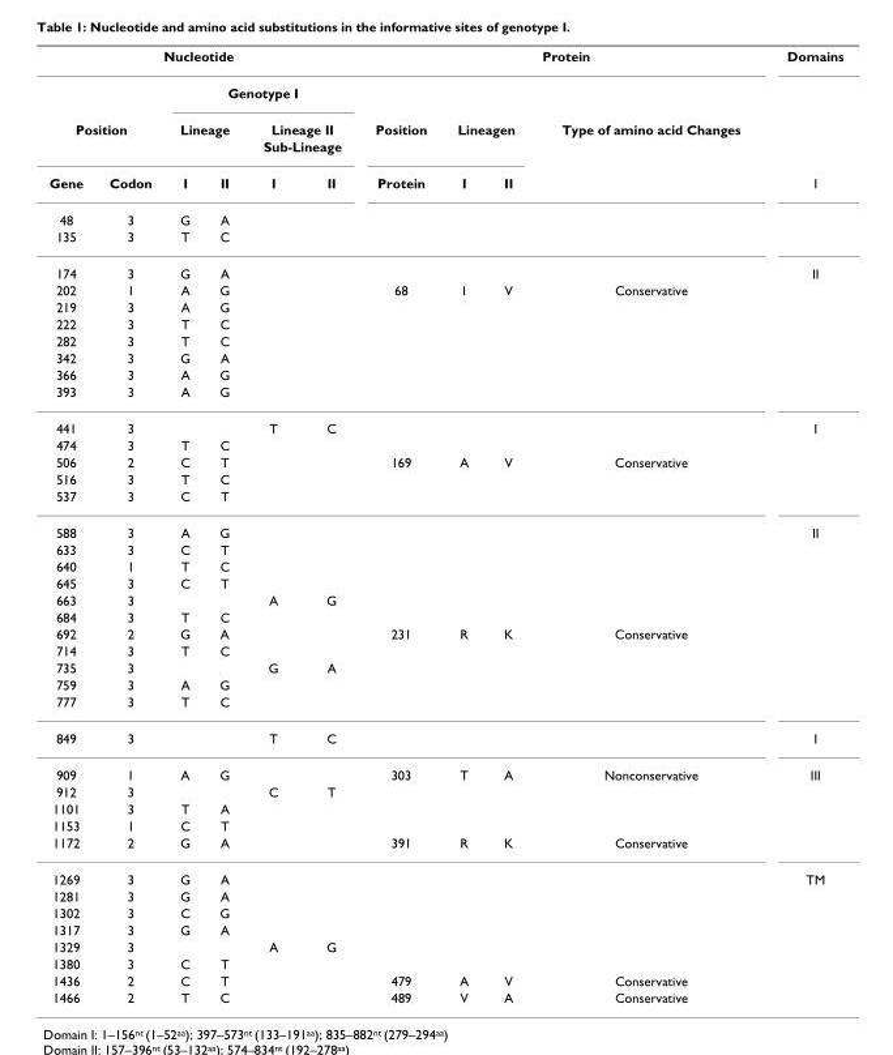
<table><tbody><tr><td colspan="6">Nucleotide</td><td colspan="4">Protein</td><td>Domains</td></tr><tr><td></td><td></td><td colspan="4">Genotype I</td><td></td><td></td><td></td><td></td><td></td></tr><tr><td colspan="2">Position</td><td colspan="2">Lineage</td><td colspan="2">Lineage II</td><td>Position</td><td colspan="2">Lineagen</td><td>Type of amino acid Changes</td><td></td></tr><tr><td></td><td></td><td></td><td></td><td colspan="2">Sub-Lineage</td><td></td><td></td><td></td><td></td><td></td></tr><tr><td>Gene</td><td>Codon</td><td>I</td><td>II</td><td>I</td><td>II</td><td>Protein</td><td>I</td><td>II</td><td></td><td>I</td></tr><tr><td>48</td><td>3</td><td>G</td><td>A</td><td></td><td></td><td></td><td></td><td></td><td></td><td></td></tr><tr><td>135</td><td>3</td><td>T</td><td>C</td><td></td><td></td><td></td><td></td><td></td><td></td><td></td></tr><tr><td>174</td><td>3</td><td>G</td><td>A</td><td></td><td></td><td></td><td></td><td></td><td></td><td>II</td></tr><tr><td>202</td><td>1</td><td>A</td><td>G</td><td></td><td></td><td>68</td><td>I</td><td>V</td><td>Conservative</td><td></td></tr><tr><td>219</td><td>3</td><td>A</td><td>G</td><td></td><td></td><td></td><td></td><td></td><td></td><td></td></tr><tr><td>222</td><td>3</td><td>T</td><td>C</td><td></td><td></td><td></td><td></td><td></td><td></td><td></td></tr><tr><td>282</td><td>3</td><td>T</td><td>C</td><td></td><td></td><td></td><td></td><td></td><td></td><td></td></tr><tr><td>342</td><td>3</td><td>G</td><td>A</td><td></td><td></td><td></td><td></td><td></td><td></td><td></td></tr><tr><td>366</td><td>3</td><td>A</td><td>G</td><td></td><td></td><td></td><td></td><td></td><td></td><td></td></tr><tr><td>393</td><td>3</td><td>A</td><td>G</td><td></td><td></td><td></td><td></td><td></td><td></td><td></td></tr><tr><td>441</td><td>3</td><td></td><td></td><td>T</td><td>C</td><td></td><td></td><td></td><td></td><td>I</td></tr><tr><td>474</td><td>3</td><td>T</td><td>C</td><td></td><td></td><td></td><td></td><td></td><td></td><td></td></tr><tr><td>506</td><td>2</td><td>C</td><td>T</td><td></td><td></td><td>169</td><td>A</td><td>V</td><td>Conservative</td><td></td></tr><tr><td>516</td><td>3</td><td>T</td><td>C</td><td></td><td></td><td></td><td></td><td></td><td></td><td></td></tr><tr><td>537</td><td>3</td><td>C</td><td>T</td><td></td><td></td><td></td><td></td><td></td><td></td><td></td></tr><tr><td>588</td><td>3</td><td>A</td><td>G</td><td></td><td></td><td></td><td></td><td></td><td></td><td>II</td></tr><tr><td>633</td><td>3</td><td>C</td><td>T</td><td></td><td></td><td></td><td></td><td></td><td></td><td></td></tr><tr><td>640</td><td>1</td><td>T</td><td>C</td><td></td><td></td><td></td><td></td><td></td><td></td><td></td></tr><tr><td>645</td><td>3</td><td>C</td><td>T</td><td></td><td></td><td></td><td></td><td></td><td></td><td></td></tr><tr><td>663</td><td>3</td><td></td><td></td><td>A</td><td>G</td><td></td><td></td><td></td><td></td><td></td></tr><tr><td>684</td><td>3</td><td>T</td><td>C</td><td></td><td></td><td></td><td></td><td></td><td></td><td></td></tr><tr><td>692</td><td>2</td><td>G</td><td>A</td><td></td><td></td><td>231</td><td>R</td><td>K</td><td>Conservative</td><td></td></tr><tr><td>714</td><td>3</td><td>T</td><td>C</td><td></td><td></td><td></td><td></td><td></td><td></td><td></td></tr><tr><td>735</td><td>3</td><td></td><td></td><td>G</td><td>A</td><td></td><td></td><td></td><td></td><td></td></tr><tr><td>759</td><td>3</td><td>A</td><td>G</td><td></td><td></td><td></td><td></td><td></td><td></td><td></td></tr><tr><td>777</td><td>3</td><td>T</td><td>C</td><td></td><td></td><td></td><td></td><td></td><td></td><td></td></tr><tr><td>849</td><td>3</td><td></td><td></td><td>T</td><td>C</td><td></td><td></td><td></td><td></td><td>I</td></tr><tr><td>909</td><td>1</td><td>A</td><td>G</td><td></td><td></td><td>303</td><td>T</td><td>A</td><td>Nonconservative</td><td>III</td></tr><tr><td>912</td><td>3</td><td></td><td></td><td>C</td><td>T</td><td></td><td></td><td></td><td></td><td></td></tr><tr><td>1101</td><td>3</td><td>T</td><td>A</td><td></td><td></td><td></td><td></td><td></td><td></td><td></td></tr><tr><td>1153</td><td>1</td><td>C</td><td>T</td><td></td><td></td><td></td><td></td><td></td><td></td><td></td></tr><tr><td>1172</td><td>2</td><td>G</td><td>A</td><td></td><td></td><td>391</td><td>R</td><td>K</td><td>Conservative</td><td></td></tr><tr><td>1269</td><td>3</td><td>G</td><td>A</td><td></td><td></td><td></td><td></td><td></td><td></td><td>TM</td></tr><tr><td>1281</td><td>3</td><td>G</td><td>A</td><td></td><td></td><td></td><td></td><td></td><td></td><td></td></tr><tr><td>1302</td><td>3</td><td>C</td><td>G</td><td></td><td></td><td></td><td></td><td></td><td></td><td></td></tr><tr><td>1317</td><td>3</td><td>G</td><td>A</td><td></td><td></td><td></td><td></td><td></td><td></td><td></td></tr><tr><td>1329</td><td>3</td><td></td><td></td><td>A</td><td>G</td><td></td><td></td><td></td><td></td><td></td></tr><tr><td>1380</td><td>3</td><td>C</td><td>T</td><td></td><td></td><td></td><td></td><td></td><td></td><td></td></tr><tr><td>1436</td><td>2</td><td>C</td><td>T</td><td></td><td></td><td>479</td><td>A</td><td>V</td><td>Conservative</td><td></td></tr><tr><td>1466</td><td>2</td><td>T</td><td>C</td><td></td><td></td><td>489</td><td>V</td><td>A</td><td>Conservative</td><td></td></tr></tbody></table>